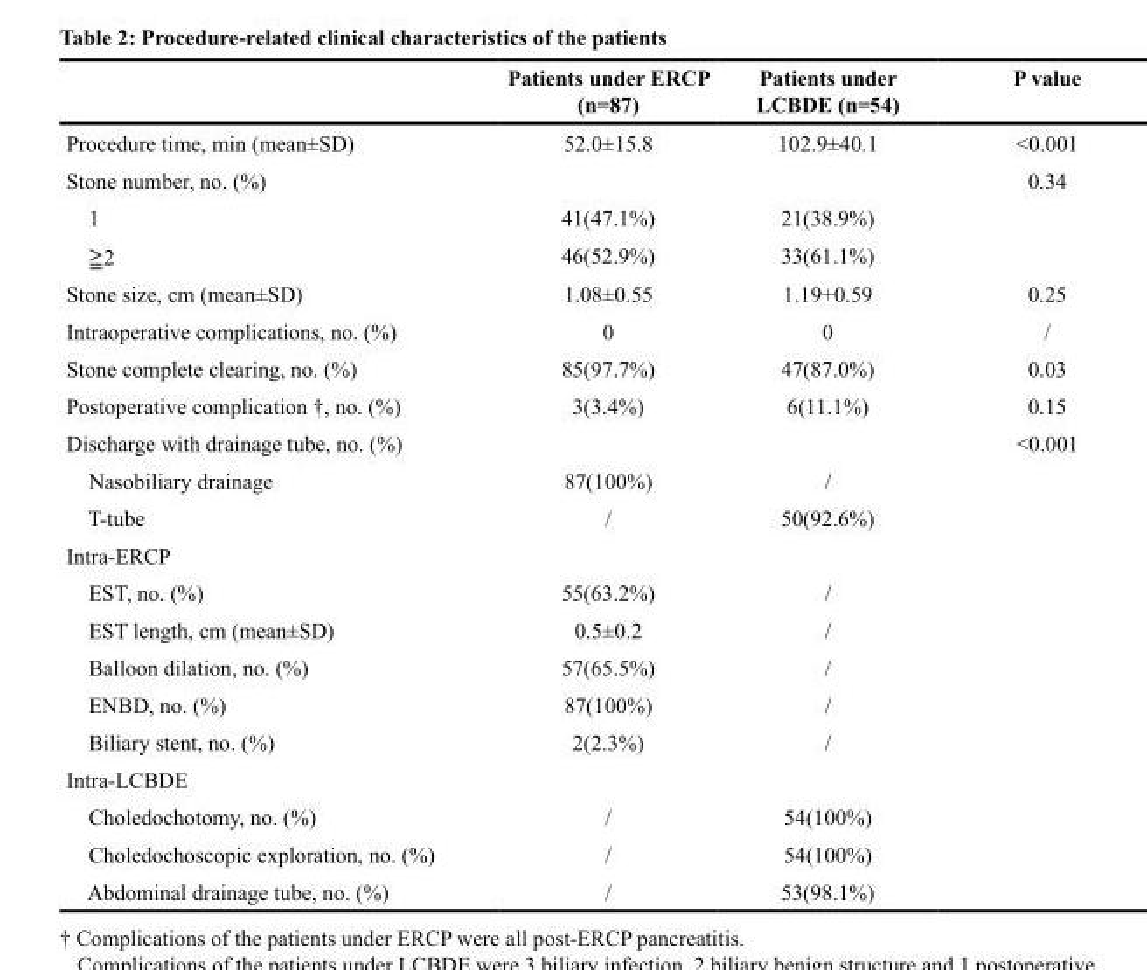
<table><thead><tr><td></td><td>Patients under ERCP (n=87)</td><td>Patients under LCBDE (n=54)</td><td>P value</td></tr></thead><tbody><tr><td>Procedure time, min (mean±SD)</td><td>52.0±15.8</td><td>102.9±40.1</td><td>&lt;0.001</td></tr><tr><td>Stone number, no. (%)</td><td></td><td></td><td>0.34</td></tr><tr><td>1</td><td>41(47.1%)</td><td>21(38.9%)</td><td></td></tr><tr><td>≧2</td><td>46(52.9%)</td><td>33(61.1%)</td><td></td></tr><tr><td>Stone size, cm (mean±SD)</td><td>1.08±0.55</td><td>1.19+0.59</td><td>0.25</td></tr><tr><td>Intraoperative complications, no. (%)</td><td>0</td><td>0</td><td>/</td></tr><tr><td>Stone complete clearing, no. (%)</td><td>85(97.7%)</td><td>47(87.0%)</td><td>0.03</td></tr><tr><td>Postoperative complication †, no. (%)</td><td>3(3.4%)</td><td>6(11.1%)</td><td>0.15</td></tr><tr><td>Discharge with drainage tube, no. (%)</td><td></td><td></td><td>&lt;0.001</td></tr><tr><td>Nasobiliary drainage</td><td>87(100%)</td><td>/</td><td></td></tr><tr><td>T-tube</td><td>/</td><td>50(92.6%)</td><td></td></tr><tr><td colspan="4">Intra-ERCP</td></tr><tr><td>EST, no. (%)</td><td>55(63.2%)</td><td>/</td><td></td></tr><tr><td>EST length, cm (mean±SD)</td><td>0.5±0.2</td><td>/</td><td></td></tr><tr><td>Balloon dilation, no. (%)</td><td>57(65.5%)</td><td>/</td><td></td></tr><tr><td>ENBD, no. (%)</td><td>87(100%)</td><td>/</td><td></td></tr><tr><td>Biliary stent, no. (%)</td><td>2(2.3%)</td><td>/</td><td></td></tr><tr><td colspan="4">Intra-LCBDE</td></tr><tr><td>Choledochotomy, no. (%)</td><td>/</td><td>54(100%)</td><td></td></tr><tr><td>Choledochoscopic exploration, no. (%)</td><td>/</td><td>54(100%)</td><td></td></tr><tr><td>Abdominal drainage tube, no. (%)</td><td>/</td><td>53(98.1%)</td><td></td></tr></tbody></table>